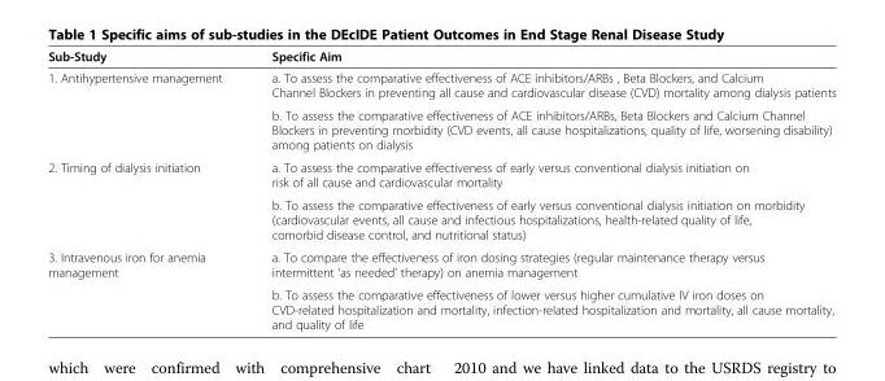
<table><thead><tr><td>Sub-Study</td><td>Specific Aim</td></tr></thead><tbody><tr><td rowspan="2">1. Antihypertensive management</td><td>a. To assess the comparative effectiveness of ACE inhibitors/ARBs , Beta Blockers, and Calcium Channel Blockers in preventing all cause and cardiovascular disease (CVD) mortality among dialysis patients</td></tr><tr><td>b. To assess the comparative effectiveness of ACE inhibitors/ARBs, Beta Blockers and Calcium Channel Blockers in preventing morbidity (CVD events, all cause hospitalizations, quality of life, worsening disability) among patients on dialysis</td></tr><tr><td rowspan="2">2. Timing of dialysis initiation</td><td>a. To assess the comparative effectiveness of early versus conventional dialysis initiation on risk of all cause and cardiovascular mortality</td></tr><tr><td>b. To assess the comparative effectiveness of early versus conventional dialysis initiation on morbidity (cardiovascular events, all cause and infectious hospitalizations, health-related quality of life, comorbid disease control, and nutritional status)</td></tr><tr><td rowspan="2">3. Intravenous iron for anemia management</td><td>a. To compare the effectiveness of iron dosing strategies (regular maintenance therapy versus intermittent ‘as needed’ therapy) on anemia management</td></tr><tr><td>b. To assess the comparative effectiveness of lower versus higher cumulative IV iron doses on CVD-related hospitalization and mortality, infection-related hospitalization and mortality, all cause mortality, and quality of life</td></tr></tbody></table>